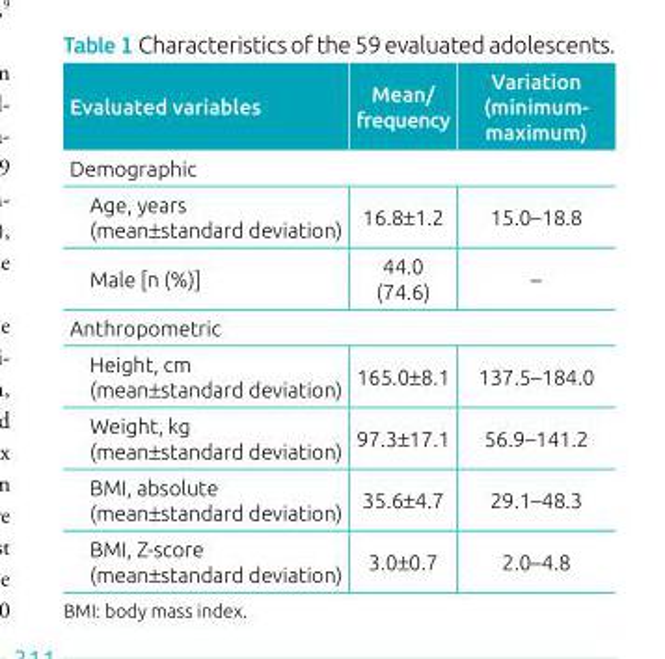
<table><thead><tr><td>Evaluated variables</td><td>Mean/ frequency</td><td>Variation (minimum‑ maximum)</td></tr></thead><tbody><tr><td colspan="3">Demographic</td></tr><tr><td>Age, years (mean±standard deviation)</td><td>16.8±1.2</td><td>15.0–18.8</td></tr><tr><td>Male [n (%)]</td><td>44.0 (74.6)</td><td>–</td></tr><tr><td colspan="3">Anthropometric</td></tr><tr><td>Height, cm (mean±standard deviation)</td><td>165.0±8.1</td><td>137.5–184.0</td></tr><tr><td>Weight, kg (mean±standard deviation)</td><td>97.3±17.1</td><td>56.9–141.2</td></tr><tr><td>BMI, absolute (mean±standard deviation)</td><td>35.6±4.7</td><td>29.1–48.3</td></tr><tr><td>BMI, Z‑score (mean±standard deviation)</td><td>3.0±0.7</td><td>2.0–4.8</td></tr></tbody></table>